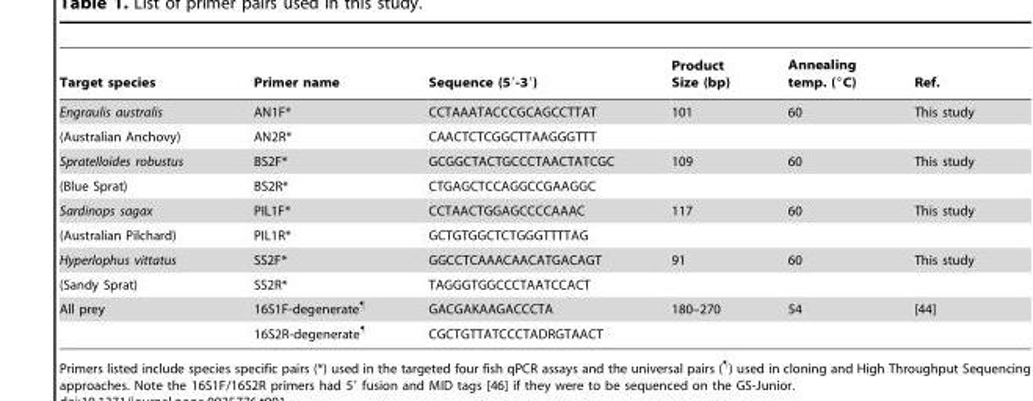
<table><thead><tr><td>Target species</td><td>Primer name</td><td>Sequence (5′-3′)</td><td>Product Size (bp)</td><td>Annealing temp. (°C)</td><td>Ref.</td></tr></thead><tbody><tr><td>Engraulis australis</td><td>AN1F*</td><td>CCTAAATACCCGCAGCCTTAT</td><td>101</td><td>60</td><td>This study</td></tr><tr><td>(Australian Anchovy)</td><td>AN2R*</td><td>CAACTCTCGGCTTAAGGGTTT</td><td></td><td></td><td></td></tr><tr><td>Spratelloides robustus</td><td>BS2F*</td><td>GCGGCTACTGCCCTAACTATCGC</td><td>109</td><td>60</td><td>This study</td></tr><tr><td>(Blue Sprat)</td><td>BS2R*</td><td>CTGAGCTCCAGGCCGAAGGC</td><td></td><td></td><td></td></tr><tr><td>Sardinops sagax</td><td>PIL1F*</td><td>CCTAACTGGAGCCCCAAAC</td><td>117</td><td>60</td><td>This study</td></tr><tr><td>(Australian Pilchard)</td><td>PIL1R*</td><td>GCTGTGGCTCTGGGTTTTAG</td><td></td><td></td><td></td></tr><tr><td>Hyperlophus vittatus</td><td>SS2F*</td><td>GGCCTCAAACAACATGACAGT</td><td>91</td><td>60</td><td>This study</td></tr><tr><td>(Sandy Sprat)</td><td>SS2R*</td><td>TAGGGTGGCCCTAATCCACT</td><td></td><td></td><td></td></tr><tr><td rowspan="2">All prey</td><td>16S1F-degenerate<sup>¶</sup></td><td>GACGAKAAGACCCTA</td><td>180–270</td><td>54</td><td>[44]</td></tr><tr><td>16S2R-degenerate<sup>¶</sup></td><td>CGCTGTTATCCCTADRGTAACT</td><td></td><td></td><td></td></tr></tbody></table>